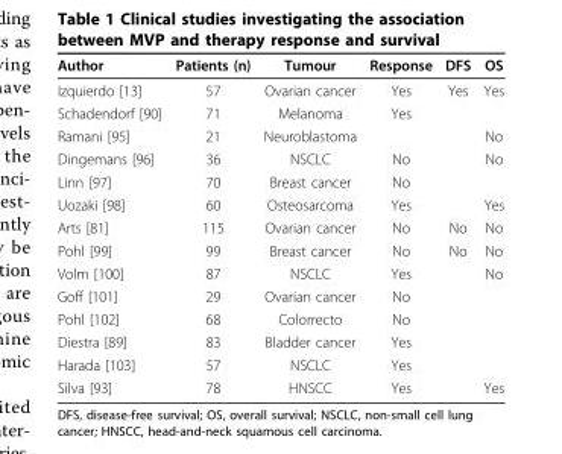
<table><thead><tr><td>Author</td><td>Patients (n)</td><td>Tumour</td><td>Response</td><td>DFS</td><td>OS</td></tr></thead><tbody><tr><td>Izquierdo [13]</td><td>57</td><td>Ovarian cancer</td><td>Yes</td><td>Yes</td><td>Yes</td></tr><tr><td>Schadendorf [90]</td><td>71</td><td>Melanoma</td><td>Yes</td><td></td><td></td></tr><tr><td>Ramani [95]</td><td>21</td><td>Neuroblastoma</td><td></td><td></td><td>No</td></tr><tr><td>Dingemans [96]</td><td>36</td><td>NSCLC</td><td>No</td><td></td><td>No</td></tr><tr><td>Linn [97]</td><td>70</td><td>Breast cancer</td><td>No</td><td></td><td></td></tr><tr><td>Uozaki [98]</td><td>60</td><td>Osteosarcoma</td><td>Yes</td><td></td><td>Yes</td></tr><tr><td>Arts [81]</td><td>115</td><td>Ovarian cancer</td><td>No</td><td>No</td><td>No</td></tr><tr><td>Pohl [99]</td><td>99</td><td>Breast cancer</td><td>No</td><td>No</td><td>No</td></tr><tr><td>Volm [100]</td><td>87</td><td>NSCLC</td><td>Yes</td><td></td><td>No</td></tr><tr><td>Goff [101]</td><td>29</td><td>Ovarian cancer</td><td>No</td><td></td><td></td></tr><tr><td>Pohl [102]</td><td>68</td><td>Colorrecto</td><td>No</td><td></td><td></td></tr><tr><td>Diestra [89]</td><td>83</td><td>Bladder cancer</td><td>Yes</td><td></td><td></td></tr><tr><td>Harada [103]</td><td>57</td><td>NSCLC</td><td>Yes</td><td></td><td></td></tr><tr><td>Silva [93]</td><td>78</td><td>HNSCC</td><td>Yes</td><td></td><td>Yes</td></tr></tbody></table>